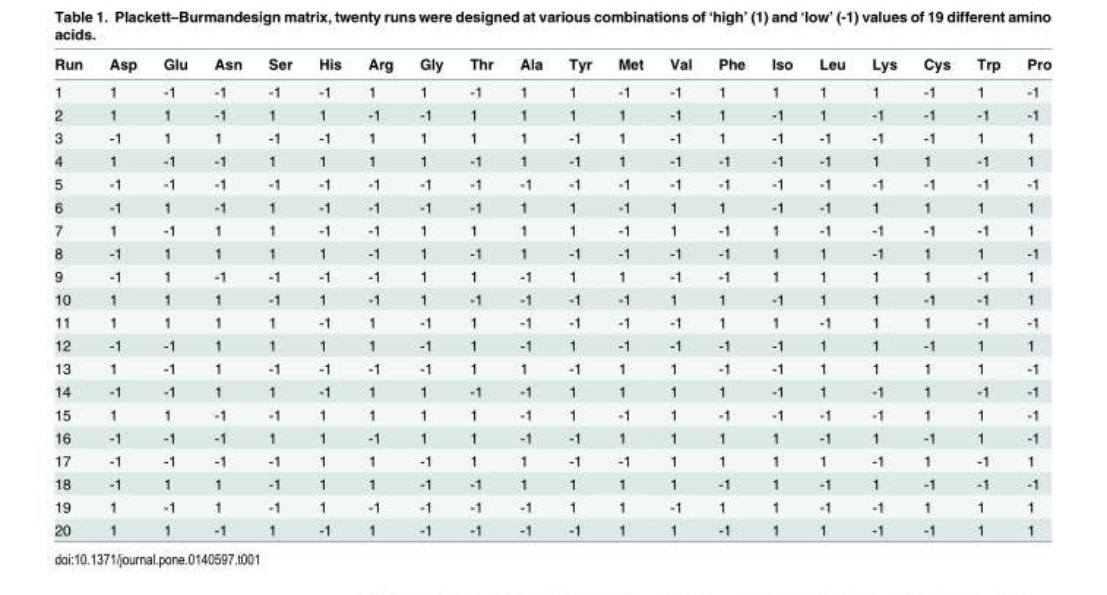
<table><thead><tr><td>Run</td><td>Asp</td><td>Glu</td><td>Asn</td><td>Ser</td><td>His</td><td>Arg</td><td>Gly</td><td>Thr</td><td>Ala</td><td>Tyr</td><td>Met</td><td>Val</td><td>Phe</td><td>Iso</td><td>Leu</td><td>Lys</td><td>Cys</td><td>Trp</td><td>Pro</td></tr></thead><tbody><tr><td>1</td><td>1</td><td>-1</td><td>-1</td><td>-1</td><td>-1</td><td>1</td><td>1</td><td>-1</td><td>1</td><td>1</td><td>-1</td><td>-1</td><td>1</td><td>1</td><td>1</td><td>1</td><td>-1</td><td>1</td><td>-1</td></tr><tr><td>2</td><td>1</td><td>1</td><td>-1</td><td>1</td><td>1</td><td>-1</td><td>-1</td><td>1</td><td>1</td><td>1</td><td>1</td><td>-1</td><td>1</td><td>-1</td><td>1</td><td>-1</td><td>-1</td><td>-1</td><td>-1</td></tr><tr><td>3</td><td>-1</td><td>1</td><td>1</td><td>-1</td><td>-1</td><td>1</td><td>1</td><td>1</td><td>1</td><td>-1</td><td>1</td><td>-1</td><td>1</td><td>-1</td><td>-1</td><td>-1</td><td>-1</td><td>1</td><td>1</td></tr><tr><td>4</td><td>1</td><td>-1</td><td>-1</td><td>1</td><td>1</td><td>1</td><td>1</td><td>-1</td><td>1</td><td>-1</td><td>1</td><td>-1</td><td>-1</td><td>-1</td><td>-1</td><td>1</td><td>1</td><td>-1</td><td>1</td></tr><tr><td>5</td><td>-1</td><td>-1</td><td>-1</td><td>-1</td><td>-1</td><td>-1</td><td>-1</td><td>-1</td><td>-1</td><td>-1</td><td>-1</td><td>-1</td><td>-1</td><td>-1</td><td>-1</td><td>-1</td><td>-1</td><td>-1</td><td>-1</td></tr><tr><td>6</td><td>-1</td><td>1</td><td>-1</td><td>1</td><td>-1</td><td>-1</td><td>-1</td><td>-1</td><td>1</td><td>1</td><td>-1</td><td>1</td><td>1</td><td>-1</td><td>-1</td><td>1</td><td>1</td><td>1</td><td>1</td></tr><tr><td>7</td><td>1</td><td>-1</td><td>1</td><td>1</td><td>-1</td><td>-1</td><td>1</td><td>1</td><td>1</td><td>1</td><td>-1</td><td>1</td><td>-1</td><td>1</td><td>-1</td><td>-1</td><td>-1</td><td>-1</td><td>1</td></tr><tr><td>8</td><td>-1</td><td>1</td><td>1</td><td>1</td><td>1</td><td>-1</td><td>1</td><td>-1</td><td>1</td><td>-1</td><td>-1</td><td>-1</td><td>-1</td><td>1</td><td>1</td><td>-1</td><td>1</td><td>1</td><td>-1</td></tr><tr><td>9</td><td>-1</td><td>1</td><td>-1</td><td>-1</td><td>-1</td><td>-1</td><td>1</td><td>1</td><td>-1</td><td>1</td><td>1</td><td>-1</td><td>-1</td><td>1</td><td>1</td><td>1</td><td>1</td><td>-1</td><td>1</td></tr><tr><td>10</td><td>1</td><td>1</td><td>1</td><td>-1</td><td>1</td><td>-1</td><td>1</td><td>-1</td><td>-1</td><td>-1</td><td>-1</td><td>1</td><td>1</td><td>-1</td><td>1</td><td>1</td><td>-1</td><td>-1</td><td>1</td></tr><tr><td>11</td><td>1</td><td>1</td><td>1</td><td>1</td><td>-1</td><td>1</td><td>-1</td><td>1</td><td>-1</td><td>-1</td><td>-1</td><td>-1</td><td>1</td><td>1</td><td>-1</td><td>1</td><td>1</td><td>-1</td><td>-1</td></tr><tr><td>12</td><td>-1</td><td>-1</td><td>1</td><td>1</td><td>1</td><td>1</td><td>-1</td><td>1</td><td>-1</td><td>1</td><td>-1</td><td>-1</td><td>-1</td><td>-1</td><td>1</td><td>1</td><td>-1</td><td>1</td><td>1</td></tr><tr><td>13</td><td>1</td><td>-1</td><td>1</td><td>-1</td><td>-1</td><td>-1</td><td>-1</td><td>1</td><td>1</td><td>-1</td><td>1</td><td>1</td><td>-1</td><td>-1</td><td>1</td><td>1</td><td>1</td><td>1</td><td>-1</td></tr><tr><td>14</td><td>-1</td><td>-1</td><td>1</td><td>1</td><td>-1</td><td>1</td><td>1</td><td>-1</td><td>-1</td><td>1</td><td>1</td><td>1</td><td>1</td><td>-1</td><td>1</td><td>-1</td><td>1</td><td>-1</td><td>-1</td></tr><tr><td>15</td><td>1</td><td>1</td><td>-1</td><td>-1</td><td>1</td><td>1</td><td>1</td><td>1</td><td>-1</td><td>1</td><td>-1</td><td>1</td><td>-1</td><td>-1</td><td>-1</td><td>-1</td><td>1</td><td>1</td><td>-1</td></tr><tr><td>16</td><td>-1</td><td>-1</td><td>-1</td><td>1</td><td>1</td><td>-1</td><td>1</td><td>1</td><td>-1</td><td>-1</td><td>1</td><td>1</td><td>1</td><td>1</td><td>-1</td><td>1</td><td>-1</td><td>1</td><td>-1</td></tr><tr><td>17</td><td>-1</td><td>-1</td><td>-1</td><td>-1</td><td>1</td><td>1</td><td>-1</td><td>1</td><td>1</td><td>-1</td><td>-1</td><td>1</td><td>1</td><td>1</td><td>1</td><td>-1</td><td>1</td><td>-1</td><td>1</td></tr><tr><td>18</td><td>-1</td><td>1</td><td>1</td><td>-1</td><td>1</td><td>1</td><td>-1</td><td>-1</td><td>1</td><td>1</td><td>1</td><td>1</td><td>-1</td><td>1</td><td>-1</td><td>1</td><td>-1</td><td>-1</td><td>-1</td></tr><tr><td>19</td><td>1</td><td>-1</td><td>1</td><td>-1</td><td>1</td><td>-1</td><td>-1</td><td>-1</td><td>-1</td><td>1</td><td>1</td><td>-1</td><td>1</td><td>1</td><td>-1</td><td>-1</td><td>1</td><td>1</td><td>1</td></tr><tr><td>20</td><td>1</td><td>1</td><td>-1</td><td>1</td><td>-1</td><td>1</td><td>-1</td><td>-1</td><td>-1</td><td>-1</td><td>1</td><td>1</td><td>-1</td><td>1</td><td>1</td><td>-1</td><td>-1</td><td>1</td><td>1</td></tr></tbody></table>